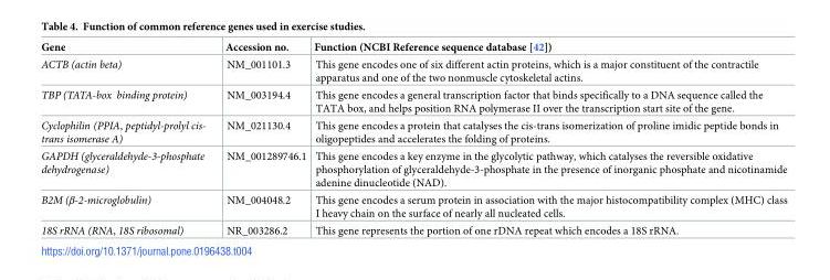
<table><thead><tr><td>Gene</td><td>Accession no.</td><td>Function (NCBI Reference sequence database [42])</td></tr></thead><tbody><tr><td>ACTB (actin beta)</td><td>NM_001101.3</td><td>This gene encodes one of six different actin proteins, which is a major constituent of the contractile apparatus and one of the two nonmuscle cytoskeletal actins.</td></tr><tr><td>TBP (TATA-box binding protein)</td><td>NM_003194.4</td><td>This gene encodes a general transcription factor that binds specifically to a DNA sequence called the TATA box, and helps position RNA polymerase II over the transcription start site of the gene.</td></tr><tr><td>Cyclophilin (PPIA, peptidyl-prolyl cis- trans isomerase A)</td><td>NM_021130.4</td><td>This gene encodes a protein that catalyses the cis-trans isomerization of proline imidic peptide bonds in oligopeptides and accelerates the folding of proteins.</td></tr><tr><td>GAPDH (glyceraldehyde-3-phosphate dehydrogenase)</td><td>NM_001289746.1</td><td>This gene encodes a key enzyme in the glycolytic pathway, which catalyses the reversible oxidative phosphorylation of glyceraldehyde-3-phosphate in the presence of inorganic phosphate and nicotinamide adenine dinucleotide (NAD).</td></tr><tr><td>B2M (β-2-microglobulin)</td><td>NM_004048.2</td><td>This gene encodes a serum protein in association with the major histocompatibility complex (MHC) class I heavy chain on the surface of nearly all nucleated cells.</td></tr><tr><td>18S rRNA (RNA, 18S ribosomal)</td><td>NR_003286.2</td><td>This gene represents the portion of one rDNA repeat which encodes a 18S rRNA.</td></tr></tbody></table>